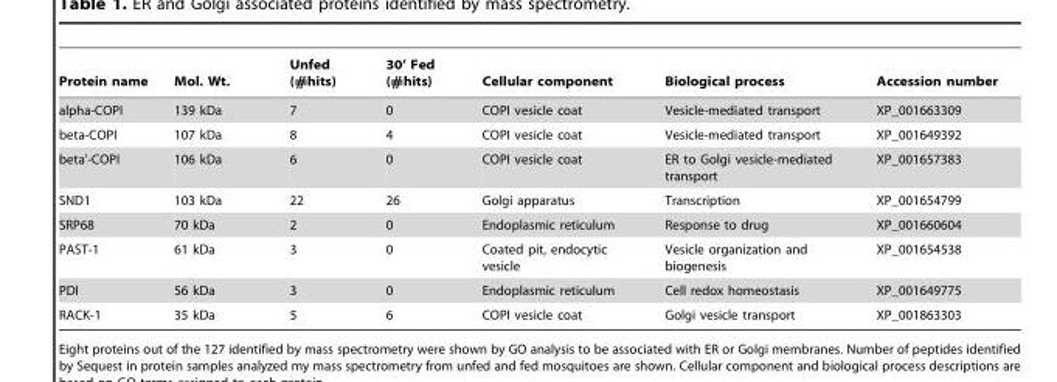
<table><thead><tr><td>Protein name</td><td>Mol. Wt.</td><td>Unfed (#hits)</td><td>30’ Fed (#hits)</td><td>Cellular component</td><td>Biological process</td><td>Accession number</td></tr></thead><tbody><tr><td>alpha-COPI</td><td>139 kDa</td><td>7</td><td>0</td><td>COPI vesicle coat</td><td>Vesicle-mediated transport</td><td>XP_001663309</td></tr><tr><td>beta-COPI</td><td>107 kDa</td><td>8</td><td>4</td><td>COPI vesicle coat</td><td>Vesicle-mediated transport</td><td>XP_001649392</td></tr><tr><td>beta’-COPI</td><td>106 kDa</td><td>6</td><td>0</td><td>COPI vesicle coat</td><td>ER to Golgi vesicle-mediated transport</td><td>XP_001657383</td></tr><tr><td>SND1</td><td>103 kDa</td><td>22</td><td>26</td><td>Golgi apparatus</td><td>Transcription</td><td>XP_001654799</td></tr><tr><td>SRP68</td><td>70 kDa</td><td>2</td><td>0</td><td>Endoplasmic reticulum</td><td>Response to drug</td><td>XP_001660604</td></tr><tr><td>PAST-1</td><td>61 kDa</td><td>3</td><td>0</td><td>Coated pit, endocytic vesicle</td><td>Vesicle organization and biogenesis</td><td>XP_001654538</td></tr><tr><td>PDI</td><td>56 kDa</td><td>3</td><td>0</td><td>Endoplasmic reticulum</td><td>Cell redox homeostasis</td><td>XP_001649775</td></tr><tr><td>RACK-1</td><td>35 kDa</td><td>5</td><td>6</td><td>COPI vesicle coat</td><td>Golgi vesicle transport</td><td>XP_001863303</td></tr></tbody></table>